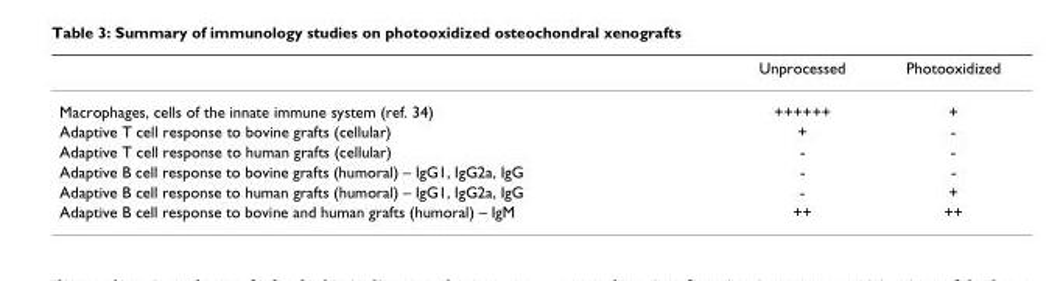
<table><thead><tr><td></td><td>Unprocessed</td><td>Photooxidized</td></tr></thead><tbody><tr><td>Macrophages, cells of the innate immune system (ref. 34)</td><td>++++++</td><td>+</td></tr><tr><td>Adaptive T cell response to bovine grafts (cellular)</td><td>+</td><td>-</td></tr><tr><td>Adaptive T cell response to human grafts (cellular)</td><td>-</td><td>-</td></tr><tr><td>Adaptive B cell response to bovine grafts (humoral) – IgG1, IgG2a, IgG</td><td>-</td><td>-</td></tr><tr><td>Adaptive B cell response to human grafts (humoral) – IgG1, IgG2a, IgG</td><td>-</td><td>+</td></tr><tr><td>Adaptive B cell response to bovine and human grafts (humoral) – IgM</td><td>++</td><td>++</td></tr></tbody></table>